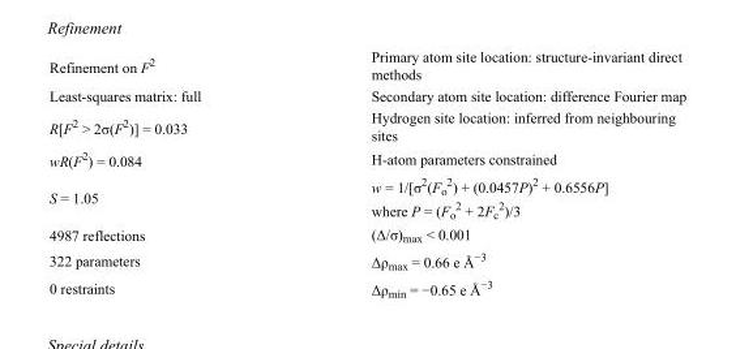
<table><tbody><tr><td>Refinement on F<sup>2</sup></td><td>Primary atom site location: structure-invariant direct methods</td></tr><tr><td>Least-squares matrix: full</td><td>Secondary atom site location: difference Fourier map</td></tr><tr><td>R[F<sup>2</sup> &gt; 2σ(F<sup>2</sup>)] = 0.033</td><td>Hydrogen site location: inferred from neighbouring sites</td></tr><tr><td>wR(F<sup>2</sup>) = 0.084</td><td>H-atom parameters constrained</td></tr><tr><td>S = 1.05</td><td>w = 1/[σ<sup>2</sup>(F<sub>o</sub> <sup>2</sup>) + (0.0457P)<sup>2</sup> + 0.6556P] where P = (F<sub>o</sub> <sup>2</sup> + 2F<sub>c</sub> <sup>2</sup>)/3</td></tr><tr><td>4987 reflections</td><td>(Δ/σ)<sub>max</sub> &lt; 0.001</td></tr><tr><td>322 parameters</td><td>Δρ<sub>max</sub> = 0.66 e Å<sup>−3</sup></td></tr><tr><td>0 restraints</td><td>Δρ<sub>min</sub> = −0.65 e Å<sup>−3</sup></td></tr></tbody></table>